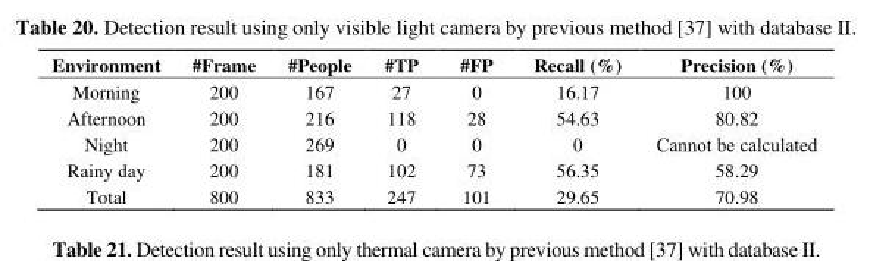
<table><thead><tr><td>Environment</td><td>#Frame</td><td>#People</td><td>#TP</td><td>#FP</td><td>Recall (%)</td><td>Precision (%)</td></tr></thead><tbody><tr><td>Morning</td><td>200</td><td>167</td><td>27</td><td>0</td><td>16.17</td><td>100</td></tr><tr><td>Afternoon</td><td>200</td><td>216</td><td>118</td><td>28</td><td>54.63</td><td>80.82</td></tr><tr><td>Night</td><td>200</td><td>269</td><td>0</td><td>0</td><td>0</td><td>Cannot be calculated</td></tr><tr><td>Rainy day</td><td>200</td><td>181</td><td>102</td><td>73</td><td>56.35</td><td>58.29</td></tr><tr><td>Total</td><td>800</td><td>833</td><td>247</td><td>101</td><td>29.65</td><td>70.98</td></tr></tbody></table>